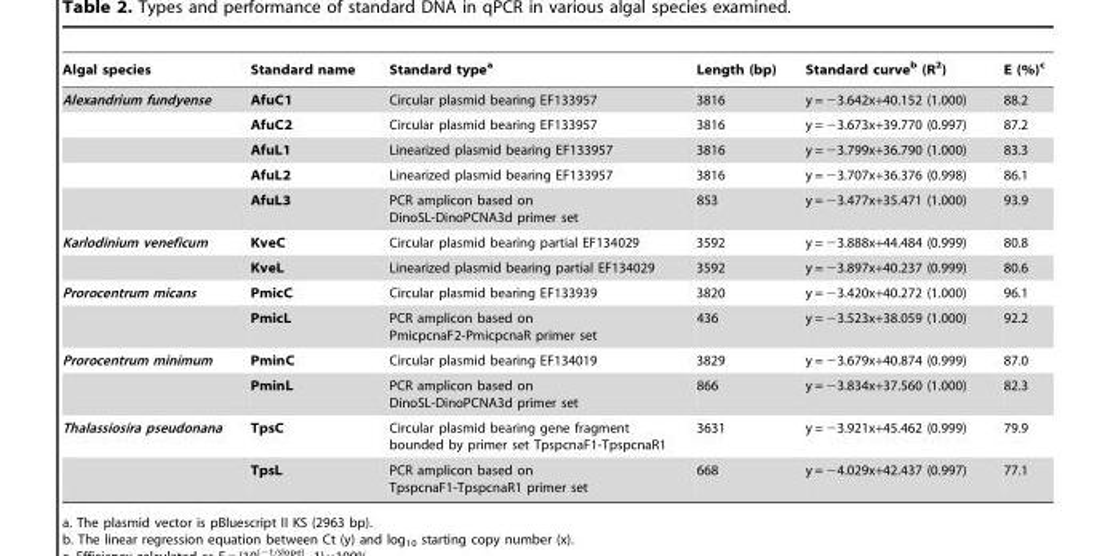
<table><thead><tr><td>Algal species</td><td>Standard name</td><td>Standard type<sup>a</sup></td><td>Length (bp)</td><td>Standard curve<sup>b</sup> (R<sup>2</sup>)</td><td>E (%)<sup>c</sup></td></tr></thead><tbody><tr><td rowspan="5">Alexandrium fundyense</td><td>AfuC1</td><td>Circular plasmid bearing EF133957</td><td>3816</td><td>y = −3.642x+40.152 (1.000)</td><td>88.2</td></tr><tr><td>AfuC2</td><td>Circular plasmid bearing EF133957</td><td>3816</td><td>y = −3.673x+39.770 (0.997)</td><td>87.2</td></tr><tr><td>AfuL1</td><td>Linearized plasmid bearing EF133957</td><td>3816</td><td>y = −3.799x+36.790 (1.000)</td><td>83.3</td></tr><tr><td>AfuL2</td><td>Linearized plasmid bearing EF133957</td><td>3816</td><td>y = −3.707x+36.376 (0.998)</td><td>86.1</td></tr><tr><td>AfuL3</td><td>PCR amplicon based on DinoSL-DinoPCNA3d primer set</td><td>853</td><td>y = −3.477x+35.471 (1.000)</td><td>93.9</td></tr><tr><td rowspan="2">Karlodinium veneficum</td><td>KveC</td><td>Circular plasmid bearing partial EF134029</td><td>3592</td><td>y = −3.888x+44.484 (0.999)</td><td>80.8</td></tr><tr><td>KveL</td><td>Linearized plasmid bearing partial EF134029</td><td>3592</td><td>y = −3.897x+40.237 (0.999)</td><td>80.6</td></tr><tr><td rowspan="2">Prorocentrum micans</td><td>PmicC</td><td>Circular plasmid bearing EF133939</td><td>3820</td><td>y = −3.420x+40.272 (1.000)</td><td>96.1</td></tr><tr><td>PmicL</td><td>PCR amplicon based on PmicpcnaF2-PmicpcnaR primer set</td><td>436</td><td>y = −3.523x+38.059 (1.000)</td><td>92.2</td></tr><tr><td rowspan="2">Prorocentrum minimum</td><td>PminC</td><td>Circular plasmid bearing EF134019</td><td>3829</td><td>y = −3.679x+40.874 (0.999)</td><td>87.0</td></tr><tr><td>PminL</td><td>PCR amplicon based on DinoSL-DinoPCNA3d primer set</td><td>866</td><td>y = −3.834x+37.560 (1.000)</td><td>82.3</td></tr><tr><td rowspan="2">Thalassiosira pseudonana</td><td>TpsC</td><td>Circular plasmid bearing gene fragment bounded by primer set TpspcnaF1-TpspcnaR1</td><td>3631</td><td>y = −3.921x+45.462 (0.999)</td><td>79.9</td></tr><tr><td>TpsL</td><td>PCR amplicon based on TpspcnaF1-TpspcnaR1 primer set</td><td>668</td><td>y = −4.029x+42.437 (0.997)</td><td>77.1</td></tr></tbody></table>